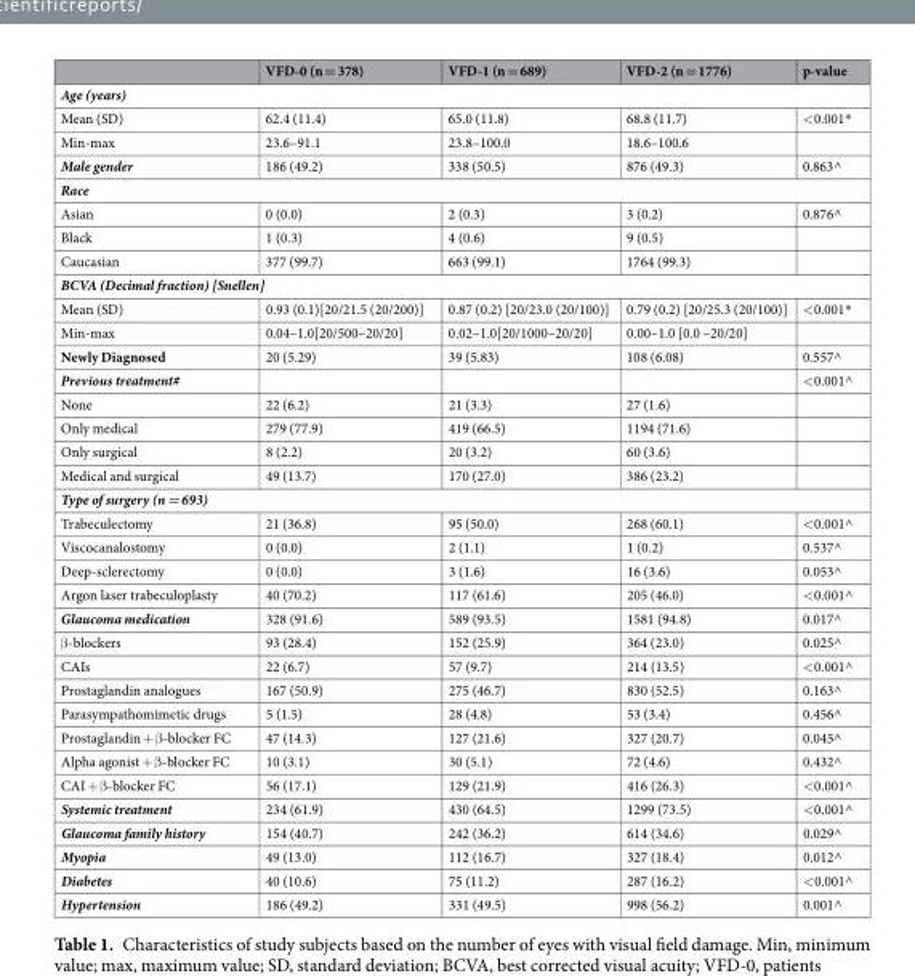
<table><thead><tr><td></td><td>VFD-0 (n = 378)</td><td>VFD-1 (n = 689)</td><td>VFD-2 (n = 1776)</td><td>p-value</td></tr></thead><tbody><tr><td colspan="5">Age (years)</td></tr><tr><td>Mean (SD)</td><td>62.4 (11.4)</td><td>65.0 (11.8)</td><td>68.8 (11.7)</td><td>&lt;0.001*</td></tr><tr><td>Min-max</td><td>23.6–91.1</td><td>23.8–100.0</td><td>18.6–100.6</td><td></td></tr><tr><td>Male gender</td><td>186 (49.2)</td><td>338 (50.5)</td><td>876 (49.3)</td><td>0.863^</td></tr><tr><td colspan="5">Race</td></tr><tr><td>Asian</td><td>0 (0.0)</td><td>2 (0.3)</td><td>3 (0.2)</td><td>0.876^</td></tr><tr><td>Black</td><td>1 (0.3)</td><td>4 (0.6)</td><td>9 (0.5)</td><td></td></tr><tr><td>Caucasian</td><td>377 (99.7)</td><td>663 (99.1)</td><td>1764 (99.3)</td><td></td></tr><tr><td colspan="5">BCVA (Decimal fraction) [Snellen]</td></tr><tr><td>Mean (SD)</td><td>0.93 (0.1)[20/21.5 (20/200)]</td><td>0.87 (0.2) [20/23.0 (20/100)]</td><td>0.79 (0.2) [20/25.3 (20/100)]</td><td>&lt;0.001*</td></tr><tr><td>Min-max</td><td>0.04–1.0[20/500–20/20]</td><td>0.02–1.0[20/1000–20/20]</td><td>0.00–1.0 [0.0 –20/20]</td><td></td></tr><tr><td>Newly Diagnosed</td><td>20 (5.29)</td><td>39 (5.83)</td><td>108 (6.08)</td><td>0.557^</td></tr><tr><td>Previous treatment#</td><td></td><td></td><td></td><td>&lt;0.001^</td></tr><tr><td>None</td><td>22 (6.2)</td><td>21 (3.3)</td><td>27 (1.6)</td><td></td></tr><tr><td>Only medical</td><td>279 (77.9)</td><td>419 (66.5)</td><td>1194 (71.6)</td><td></td></tr><tr><td>Only surgical</td><td>8 (2.2)</td><td>20 (3.2)</td><td>60 (3.6)</td><td></td></tr><tr><td>Medical and surgical</td><td>49 (13.7)</td><td>170 (27.0)</td><td>386 (23.2)</td><td></td></tr><tr><td colspan="5">Type of surgery (n = 693)</td></tr><tr><td>Trabeculectomy</td><td>21 (36.8)</td><td>95 (50.0)</td><td>268 (60.1)</td><td>&lt;0.001^</td></tr><tr><td>Viscocanalostomy</td><td>0 (0.0)</td><td>2 (1.1)</td><td>1 (0.2)</td><td>0.537^</td></tr><tr><td>Deep-sclerectomy</td><td>0 (0.0)</td><td>3 (1.6)</td><td>16 (3.6)</td><td>0.053^</td></tr><tr><td>Argon laser trabeculoplasty</td><td>40 (70.2)</td><td>117 (61.6)</td><td>205 (46.0)</td><td>&lt;0.001^</td></tr><tr><td>Glaucoma medication</td><td>328 (91.6)</td><td>589 (93.5)</td><td>1581 (94.8)</td><td>0.017^</td></tr><tr><td>β-blockers</td><td>93 (28.4)</td><td>152 (25.9)</td><td>364 (23.0)</td><td>0.025^</td></tr><tr><td>CAIs</td><td>22 (6.7)</td><td>57 (9.7)</td><td>214 (13.5)</td><td>&lt;0.001^</td></tr><tr><td>Prostaglandin analogues</td><td>167 (50.9)</td><td>275 (46.7)</td><td>830 (52.5)</td><td>0.163^</td></tr><tr><td>Parasympathomimetic drugs</td><td>5 (1.5)</td><td>28 (4.8)</td><td>53 (3.4)</td><td>0.456^</td></tr><tr><td>Prostaglandin + β-blocker FC</td><td>47 (14.3)</td><td>127 (21.6)</td><td>327 (20.7)</td><td>0.045^</td></tr><tr><td>Alpha agonist + β-blocker FC</td><td>10 (3.1)</td><td>30 (5.1)</td><td>72 (4.6)</td><td>0.432^</td></tr><tr><td>CAI + β-blocker FC</td><td>56 (17.1)</td><td>129 (21.9)</td><td>416 (26.3)</td><td>&lt;0.001^</td></tr><tr><td>Systemic treatment</td><td>234 (61.9)</td><td>430 (64.5)</td><td>1299 (73.5)</td><td>&lt;0.001^</td></tr><tr><td>Glaucoma family history</td><td>154 (40.7)</td><td>242 (36.2)</td><td>614 (34.6)</td><td>0.029^</td></tr><tr><td>Myopia</td><td>49 (13.0)</td><td>112 (16.7)</td><td>327 (18.4)</td><td>0.012^</td></tr><tr><td>Diabetes</td><td>40 (10.6)</td><td>75 (11.2)</td><td>287 (16.2)</td><td>&lt;0.001^</td></tr><tr><td>Hypertension</td><td>186 (49.2)</td><td>331 (49.5)</td><td>998 (56.2)</td><td>0.001^</td></tr></tbody></table>